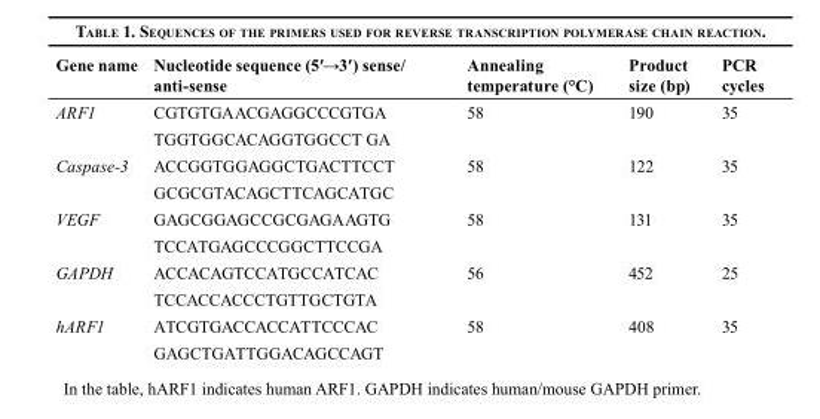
<table><thead><tr><td>Gene name</td><td>Nucleotide sequence (5′→3′) sense/ anti-sense</td><td>Annealing temperature (°C)</td><td>Product size (bp)</td><td>PCR cycles</td></tr></thead><tbody><tr><td rowspan="2">ARF1</td><td>CGTGTGAACGAGGCCCGTGA</td><td>58</td><td>190</td><td>35</td></tr><tr><td>TGGTGGCACAGGTGGCCT GA</td><td></td><td></td><td></td></tr><tr><td rowspan="2">Caspase-3</td><td>ACCGGTGGAGGCTGACTTCCT</td><td>58</td><td>122</td><td>35</td></tr><tr><td>GCGCGTACAGCTTCAGCATGC</td><td></td><td></td><td></td></tr><tr><td rowspan="2">VEGF</td><td>GAGCGGAGCCGCGAGAAGTG</td><td>58</td><td>131</td><td>35</td></tr><tr><td>TCCATGAGCCCGGCTTCCGA</td><td></td><td></td><td></td></tr><tr><td rowspan="2">GAPDH</td><td>ACCACAGTCCATGCCATCAC</td><td>56</td><td>452</td><td>25</td></tr><tr><td>TCCACCACCCTGTTGCTGTA</td><td></td><td></td><td></td></tr><tr><td rowspan="2">hARF1</td><td>ATCGTGACCACCATTCCCAC</td><td>58</td><td>408</td><td>35</td></tr><tr><td>GAGCTGATTGGACAGCCAGT</td><td></td><td></td><td></td></tr></tbody></table>